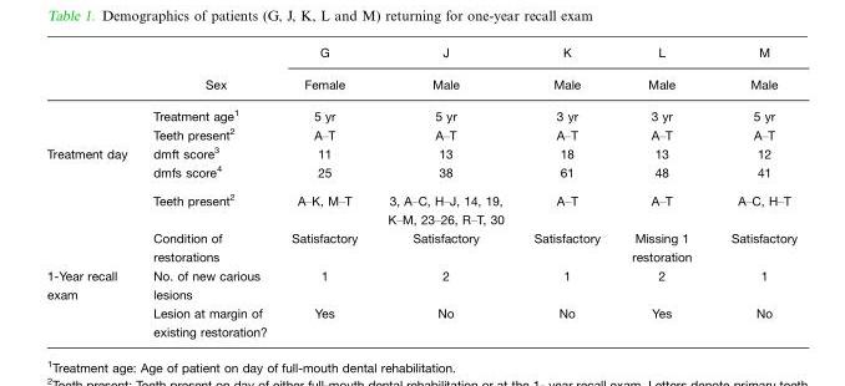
<table><thead><tr><td rowspan="2"></td><td rowspan="2">Sex</td><td rowspan="2">G Female</td><td rowspan="2">J Male</td><td rowspan="2">K Male</td><td rowspan="2">L Male</td><td rowspan="2">M Male</td></tr><tr></tr></thead><tbody><tr><td></td><td>Treatment age<sup>1</sup></td><td>5 yr</td><td>5 yr</td><td>3 yr</td><td>3 yr</td><td>5 yr</td></tr><tr><td></td><td>Teeth present<sup>2</sup></td><td>A–T</td><td>A–T</td><td>A–T</td><td>A–T</td><td>A–T</td></tr><tr><td rowspan="4">Treatment day</td><td>dmft score<sup>3</sup></td><td>11</td><td>13</td><td>18</td><td>13</td><td>12</td></tr><tr><td>dmfs score<sup>4</sup></td><td>25</td><td>38</td><td>61</td><td>48</td><td>41</td></tr><tr><td>Teeth present<sup>2</sup></td><td>A–K, M–T</td><td>3, A–C, H–J, 14, 19, K–M, 23–26, R–T, 30</td><td>A–T</td><td>A–T</td><td>A–C, H–T</td></tr><tr><td>Condition of restorations</td><td>Satisfactory</td><td>Satisfactory</td><td>Satisfactory</td><td>Missing 1 restoration</td><td>Satisfactory</td></tr><tr><td rowspan="2">1-Year recall exam</td><td>No. of new carious lesions</td><td>1</td><td>2</td><td>1</td><td>2</td><td>1</td></tr><tr><td>Lesion at margin of existing restoration?</td><td>Yes</td><td>No</td><td>No</td><td>Yes</td><td>No</td></tr></tbody></table>